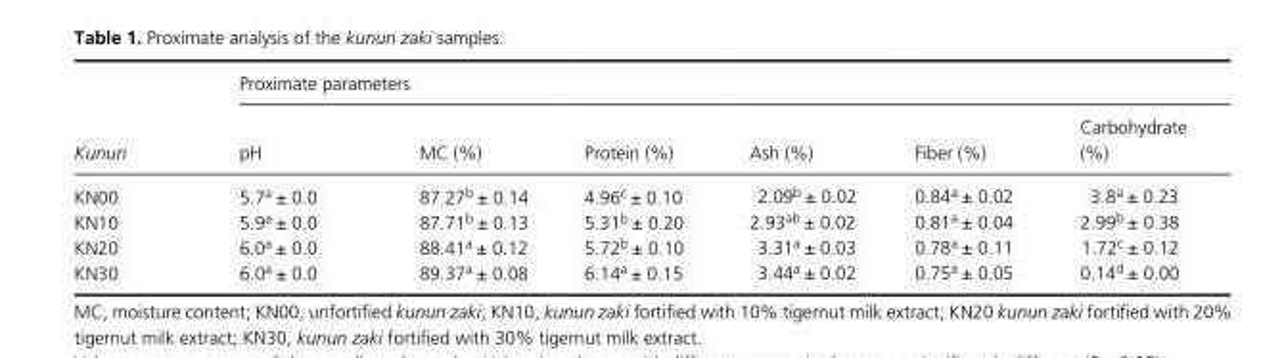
<table><thead><tr><td rowspan="2">Kunun</td><td colspan="6">Proximate parameters</td></tr><tr><td>pH</td><td>MC (%)</td><td>Protein (%)</td><td>Ash (%)</td><td>Fiber (%)</td><td>Carbohydrate (%)</td></tr></thead><tbody><tr><td>KN00</td><td>5.7<sup>a</sup> ± 0.0</td><td>87.27<sup>b</sup> ± 0.14</td><td>4.96<sup>c</sup> ± 0.10</td><td>2.09<sup>b</sup> ± 0.02</td><td>0.84<sup>a</sup> ± 0.02</td><td>3.8<sup>a</sup> ± 0.23</td></tr><tr><td>KN10</td><td>5.9<sup>a</sup> ± 0.0</td><td>87.71<sup>b</sup> ± 0.13</td><td>5.31<sup>b</sup> ± 0.20</td><td>2.93<sup>ab</sup> ± 0.02</td><td>0.81<sup>a</sup> ± 0.04</td><td>2.99<sup>b</sup> ± 0.38</td></tr><tr><td>KN20</td><td>6.0<sup>a</sup> ± 0.0</td><td>88.41<sup>a</sup> ± 0.12</td><td>5.72<sup>b</sup> ± 0.10</td><td>3.31<sup>a</sup> ± 0.03</td><td>0.78<sup>a</sup> ± 0.11</td><td>1.72<sup>c</sup> ± 0.12</td></tr><tr><td>KN30</td><td>6.0<sup>a</sup> ± 0.0</td><td>89.37<sup>a</sup> ± 0.08</td><td>6.14<sup>a</sup> ± 0.15</td><td>3.44<sup>a</sup> ± 0.02</td><td>0.75<sup>a</sup> ± 0.05</td><td>0.14<sup>d</sup> ± 0.00</td></tr></tbody></table>